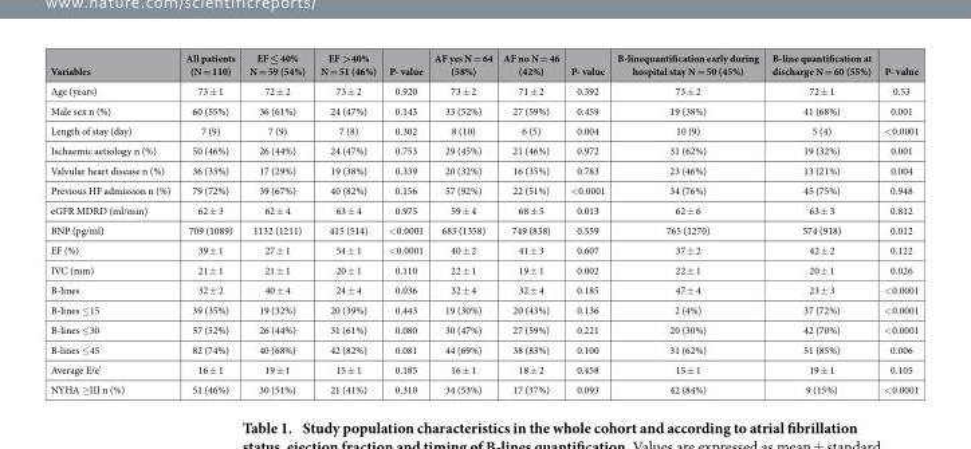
<table><thead><tr><td>Variables</td><td>All patients (N = 110)</td><td>EF ≤ 40% N = 59 (54%)</td><td>EF &gt;40% N = 51 (46%)</td><td>P- value</td><td>AF yes N = 64 (58%)</td><td>AF no N = 46 (42%)</td><td>P- value</td><td>B-linequantification early during hospital stay N = 50 (45%)</td><td>B-line quantification at discharge N = 60 (55%)</td><td>P- value</td></tr></thead><tbody><tr><td>Age (years)</td><td>73 ± 1</td><td>72 ± 2</td><td>73 ± 2</td><td>0.920</td><td>73 ± 2</td><td>71 ± 2</td><td>0.592</td><td>73 ± 2</td><td>72 ± 1</td><td>0.53</td></tr><tr><td>Male sex n (%)</td><td>60 (55%)</td><td>36 (61%)</td><td>24 (47%)</td><td>0.143</td><td>33 (52%)</td><td>27 (59%)</td><td>0.459</td><td>19 (38%)</td><td>41 (68%)</td><td>0.001</td></tr><tr><td>Length of stay (day)</td><td>7 (9)</td><td>7 (9)</td><td>7 (8)</td><td>0.302</td><td>8 (10)</td><td>6 (5)</td><td>0.004</td><td>10 (9)</td><td>5 (4)</td><td>&lt; 0.0001</td></tr><tr><td>Ischaemic aetiology n (%)</td><td>50 (46%)</td><td>26 (44%)</td><td>24 (47%)</td><td>0.753</td><td>29 (45%)</td><td>21 (46%)</td><td>0.972</td><td>31 (62%)</td><td>19 (32%)</td><td>0.001</td></tr><tr><td>Valvular heart disease n (%)</td><td>36 (33%)</td><td>17 (29%)</td><td>19 (38%)</td><td>0.339</td><td>20 (32%)</td><td>16 (35%)</td><td>0.783</td><td>23 (46%)</td><td>13 (21%)</td><td>0.004</td></tr><tr><td>Previous HF admission n (%)</td><td>79 (72%)</td><td>39 (67%)</td><td>40 (82%)</td><td>0.156</td><td>57 (92%)</td><td>22 (51%)</td><td>&lt; 0.0001</td><td>34 (76%)</td><td>45 (75%)</td><td>0.948</td></tr><tr><td>eGFR MDRD (ml/min)</td><td>62 ± 3</td><td>62 ± 4</td><td>63 ± 4</td><td>0.975</td><td>59 ± 4</td><td>68 ± 5</td><td>0.013</td><td>62 ± 6</td><td>63 ± 3</td><td>0.812</td></tr><tr><td>BNP (pg/ml)</td><td>709 (1089)</td><td>1132 (1211)</td><td>415 (514)</td><td>&lt; 0.0001</td><td>683 (1358)</td><td>749 (838)</td><td>0.559</td><td>765 (1270)</td><td>574 (918)</td><td>0.012</td></tr><tr><td>EF (%)</td><td>39 ± 1</td><td>27 ± 1</td><td>54 ± 1</td><td>&lt; 0.0001</td><td>40 ± 2</td><td>41 ± 3</td><td>0.607</td><td>37 ± 2</td><td>42 ± 2</td><td>0.122</td></tr><tr><td>IVC (mm)</td><td>21 ± 1</td><td>21 ± 1</td><td>20 ± 1</td><td>0.110</td><td>22 ± 1</td><td>19 ± 1</td><td>0.002</td><td>22 ± 1</td><td>20 ± 1</td><td>0.026</td></tr><tr><td>B-lines</td><td>32 ± 2</td><td>40 ± 4</td><td>24 ± 4</td><td>0.036</td><td>32 ± 4</td><td>32 ± 4</td><td>0.185</td><td>47 ± 4</td><td>23 ± 3</td><td>&lt; 0.0001</td></tr><tr><td>B-lines ≤ 15</td><td>39 (35%)</td><td>19 (32%)</td><td>20 (39%)</td><td>0.443</td><td>19 (30%)</td><td>20 (43%)</td><td>0.136</td><td>2 (4%)</td><td>37 (72%)</td><td>&lt; 0.0001</td></tr><tr><td>B-lines ≤ 30</td><td>57 (52%)</td><td>26 (44%)</td><td>31 (61%)</td><td>0.080</td><td>30 (47%)</td><td>27 (59%)</td><td>0.221</td><td>20 (30%)</td><td>42 (70%)</td><td>&lt; 0.0001</td></tr><tr><td>B-lines ≤ 45</td><td>82 (74%)</td><td>40 (68%)</td><td>42 (82%)</td><td>0.081</td><td>44 (69%)</td><td>38 (83%)</td><td>0.100</td><td>31 (62%)</td><td>51 (85%)</td><td>0.006</td></tr><tr><td>Average E/e’</td><td>16 ± 1</td><td>19 ± 1</td><td>15 ± 1</td><td>0.185</td><td>16 ± 1</td><td>18 ± 2</td><td>0.458</td><td>15 ± 1</td><td>19 ± 1</td><td>0.105</td></tr><tr><td>NYHA ≥ III n (%)</td><td>51 (46%)</td><td>30 (51%)</td><td>21 (41%)</td><td>0.310</td><td>34 (53%)</td><td>17 (37%)</td><td>0.093</td><td>42 (84%)</td><td>9 (15%)</td><td>&lt; 0.0001</td></tr></tbody></table>